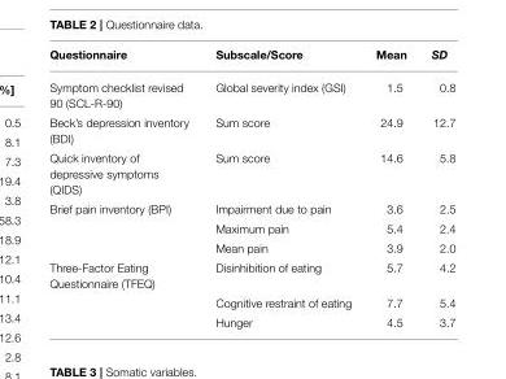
<table><thead><tr><td>Questionnaire</td><td>Subscale/Score</td><td>Mean</td><td>SD</td></tr></thead><tbody><tr><td>Symptom checklist revised 90 (SCL-R-90)</td><td>Global severity index (GSI)</td><td>1.5</td><td>0.8</td></tr><tr><td>Beck’s depression inventory (BDI)</td><td>Sum score</td><td>24.9</td><td>12.7</td></tr><tr><td>Quick inventory of depressive symptoms (QIDS)</td><td>Sum score</td><td>14.6</td><td>5.8</td></tr><tr><td rowspan="3">Brief pain inventory (BPI)</td><td>Impairment due to pain</td><td>3.6</td><td>2.5</td></tr><tr><td>Maximum pain</td><td>5.4</td><td>2.4</td></tr><tr><td>Mean pain</td><td>3.9</td><td>2.0</td></tr><tr><td rowspan="3">Three-Factor Eating Questionnaire (TFEQ)</td><td>Disinhibition of eating</td><td>5.7</td><td>4.2</td></tr><tr><td>Cognitive restraint of eating</td><td>7.7</td><td>5.4</td></tr><tr><td>Hunger</td><td>4.5</td><td>3.7</td></tr></tbody></table>